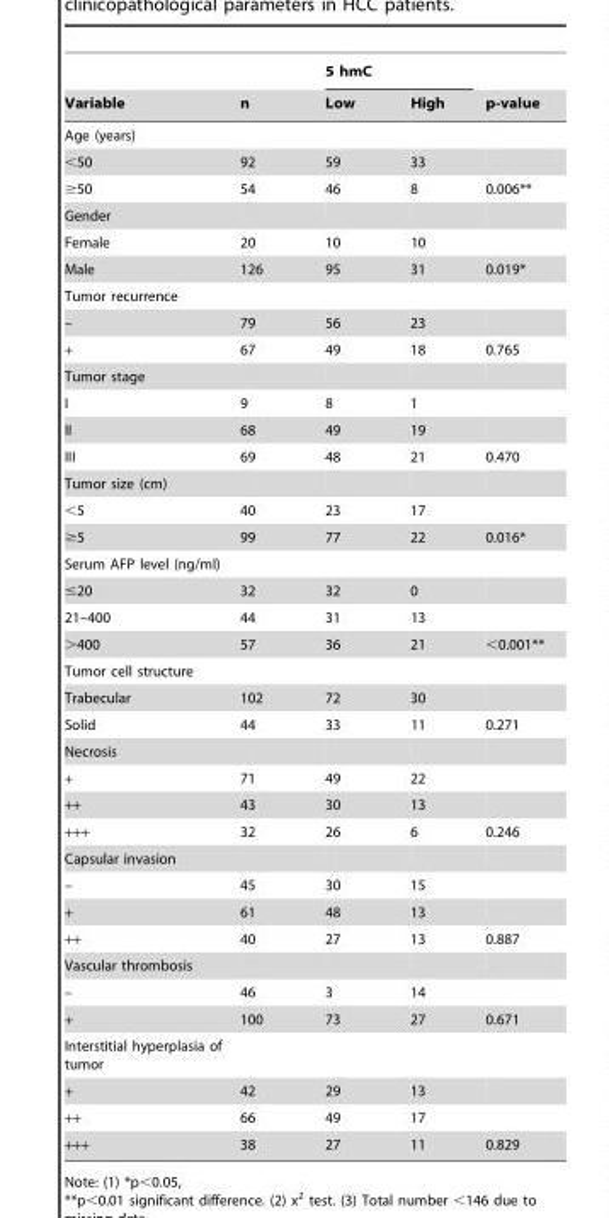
<table><thead><tr><td rowspan="2">Variable</td><td rowspan="2">n</td><td colspan="2">5 hmC</td><td rowspan="2">p-value</td></tr><tr><td>Low</td><td>High</td></tr></thead><tbody><tr><td colspan="5">Age (years)</td></tr><tr><td>&lt;50</td><td>92</td><td>59</td><td>33</td><td></td></tr><tr><td>≥50</td><td>54</td><td>46</td><td>8</td><td>0.006**</td></tr><tr><td colspan="5">Gender</td></tr><tr><td>Female</td><td>20</td><td>10</td><td>10</td><td></td></tr><tr><td>Male</td><td>126</td><td>95</td><td>31</td><td>0.019*</td></tr><tr><td colspan="5">Tumor recurrence</td></tr><tr><td>–</td><td>79</td><td>56</td><td>23</td><td></td></tr><tr><td>+</td><td>67</td><td>49</td><td>18</td><td>0.765</td></tr><tr><td colspan="5">Tumor stage</td></tr><tr><td>I</td><td>9</td><td>8</td><td>1</td><td></td></tr><tr><td>II</td><td>68</td><td>49</td><td>19</td><td></td></tr><tr><td>III</td><td>69</td><td>48</td><td>21</td><td>0.470</td></tr><tr><td colspan="5">Tumor size (cm)</td></tr><tr><td>&lt;5</td><td>40</td><td>23</td><td>17</td><td></td></tr><tr><td>≥5</td><td>99</td><td>77</td><td>22</td><td>0.016*</td></tr><tr><td colspan="5">Serum AFP level (ng/ml)</td></tr><tr><td>≤20</td><td>32</td><td>32</td><td>0</td><td></td></tr><tr><td>21–400</td><td>44</td><td>31</td><td>13</td><td></td></tr><tr><td>&gt;400</td><td>57</td><td>36</td><td>21</td><td>&lt;0.001**</td></tr><tr><td colspan="5">Tumor cell structure</td></tr><tr><td>Trabecular</td><td>102</td><td>72</td><td>30</td><td></td></tr><tr><td>Solid</td><td>44</td><td>33</td><td>11</td><td>0.271</td></tr><tr><td colspan="5">Necrosis</td></tr><tr><td>+</td><td>71</td><td>49</td><td>22</td><td></td></tr><tr><td>++</td><td>43</td><td>30</td><td>13</td><td></td></tr><tr><td>+++</td><td>32</td><td>26</td><td>6</td><td>0.246</td></tr><tr><td colspan="5">Capsular invasion</td></tr><tr><td>–</td><td>45</td><td>30</td><td>15</td><td></td></tr><tr><td>+</td><td>61</td><td>48</td><td>13</td><td></td></tr><tr><td>++</td><td>40</td><td>27</td><td>13</td><td>0.887</td></tr><tr><td colspan="5">Vascular thrombosis</td></tr><tr><td>–</td><td>46</td><td>3</td><td>14</td><td></td></tr><tr><td>+</td><td>100</td><td>73</td><td>27</td><td>0.671</td></tr><tr><td colspan="5">Interstitial hyperplasia of tumor</td></tr><tr><td>+</td><td>42</td><td>29</td><td>13</td><td></td></tr><tr><td>++</td><td>66</td><td>49</td><td>17</td><td></td></tr><tr><td>+++</td><td>38</td><td>27</td><td>11</td><td>0.829</td></tr></tbody></table>